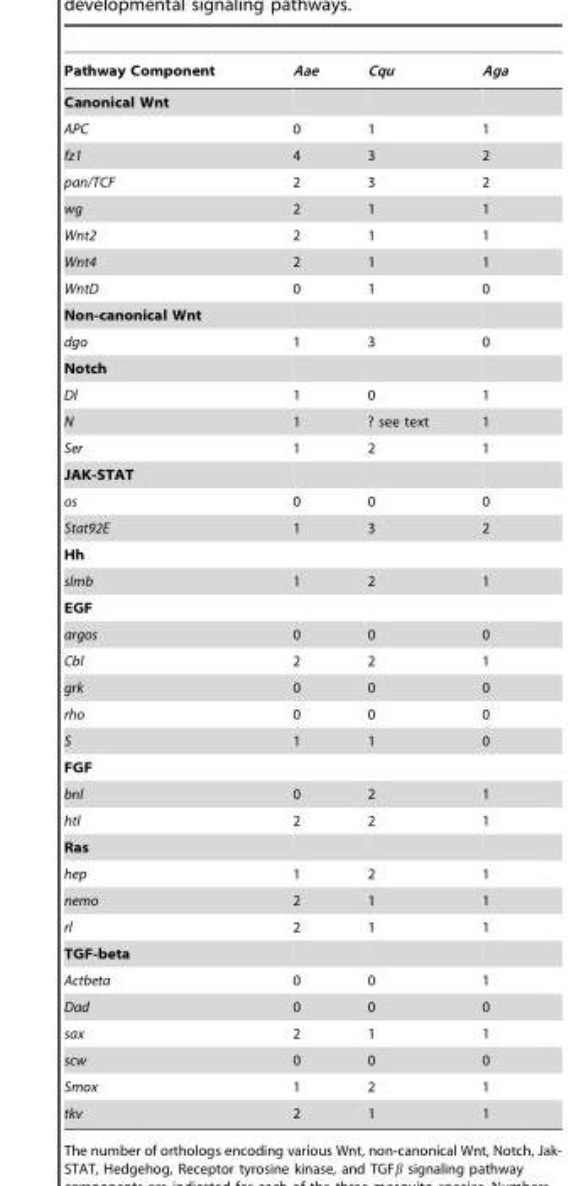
<table><thead><tr><td>Pathway Component</td><td>Aae</td><td>Cqu</td><td>Aga</td></tr></thead><tbody><tr><td colspan="4">Canonical Wnt</td></tr><tr><td>APC</td><td>0</td><td>1</td><td>1</td></tr><tr><td>fz1</td><td>4</td><td>3</td><td>2</td></tr><tr><td>pan/TCF</td><td>2</td><td>3</td><td>2</td></tr><tr><td>wg</td><td>2</td><td>1</td><td>1</td></tr><tr><td>Wnt2</td><td>2</td><td>1</td><td>1</td></tr><tr><td>Wnt4</td><td>2</td><td>1</td><td>1</td></tr><tr><td>WntD</td><td>0</td><td>1</td><td>0</td></tr><tr><td colspan="4">Non-canonical Wnt</td></tr><tr><td>dgo</td><td>1</td><td>3</td><td>0</td></tr><tr><td colspan="4">Notch</td></tr><tr><td>Dl</td><td>1</td><td>0</td><td>1</td></tr><tr><td>N</td><td>1</td><td>? see text</td><td>1</td></tr><tr><td>Ser</td><td>1</td><td>2</td><td>1</td></tr><tr><td colspan="4">JAK-STAT</td></tr><tr><td>os</td><td>0</td><td>0</td><td>0</td></tr><tr><td>Stat92E</td><td>1</td><td>3</td><td>2</td></tr><tr><td colspan="4">Hh</td></tr><tr><td>slmb</td><td>1</td><td>2</td><td>1</td></tr><tr><td colspan="4">EGF</td></tr><tr><td>argos</td><td>0</td><td>0</td><td>0</td></tr><tr><td>Cbl</td><td>2</td><td>2</td><td>1</td></tr><tr><td>grk</td><td>0</td><td>0</td><td>0</td></tr><tr><td>rho</td><td>0</td><td>0</td><td>0</td></tr><tr><td>S</td><td>1</td><td>1</td><td>0</td></tr><tr><td colspan="4">FGF</td></tr><tr><td>bnl</td><td>0</td><td>2</td><td>1</td></tr><tr><td>htl</td><td>2</td><td>2</td><td>1</td></tr><tr><td colspan="4">Ras</td></tr><tr><td>hep</td><td>1</td><td>2</td><td>1</td></tr><tr><td>nemo</td><td>2</td><td>1</td><td>1</td></tr><tr><td>rl</td><td>2</td><td>1</td><td>1</td></tr><tr><td colspan="4">TGF-beta</td></tr><tr><td>Actbeta</td><td>0</td><td>0</td><td>1</td></tr><tr><td>Dad</td><td>0</td><td>0</td><td>0</td></tr><tr><td>sax</td><td>2</td><td>1</td><td>1</td></tr><tr><td>scw</td><td>0</td><td>0</td><td>0</td></tr><tr><td>Smox</td><td>1</td><td>2</td><td>1</td></tr><tr><td>tkv</td><td>2</td><td>1</td><td>1</td></tr></tbody></table>